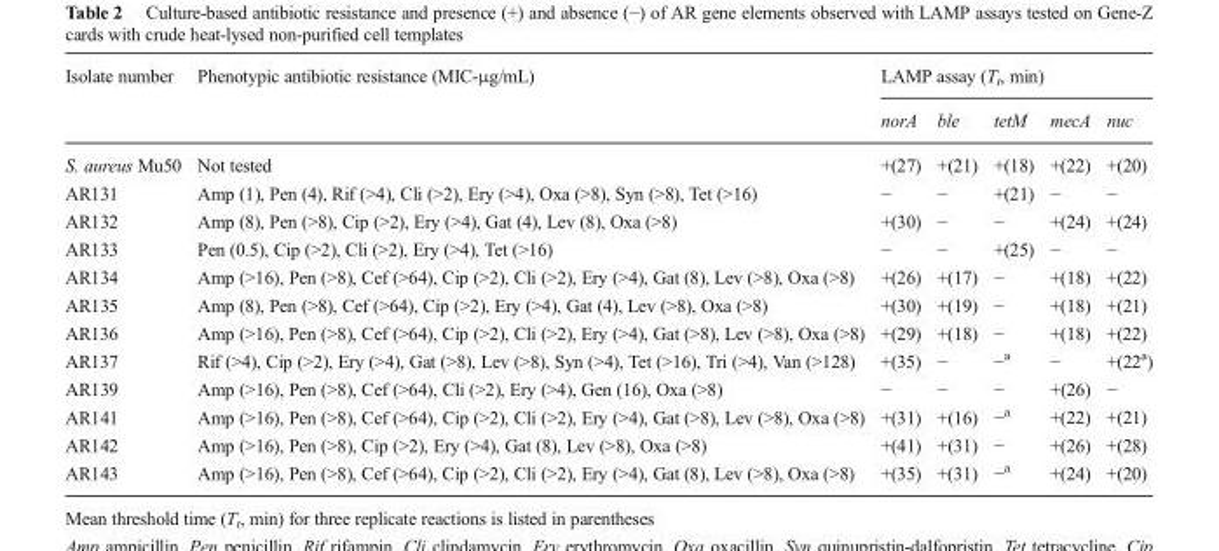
<table><thead><tr><td rowspan="2">Isolate number</td><td rowspan="2">Phenotypic antibiotic resistance (MIC-μg/mL)</td><td colspan="5">LAMP assay (T<sub>t</sub>, min)</td></tr><tr><td>norA</td><td>ble</td><td>tetM</td><td>mecA</td><td>nuc</td></tr></thead><tbody><tr><td>S. aureus Mu50</td><td>Not tested</td><td>+(27)</td><td>+(21)</td><td>+(18)</td><td>+(22)</td><td>+(20)</td></tr><tr><td>AR131</td><td>Amp (1), Pen (4), Rif (&gt;4), Cli (&gt;2), Ery (&gt;4), Oxa (&gt;8), Syn (&gt;8), Tet (&gt;16)</td><td>−</td><td>−</td><td>+(21)</td><td>−</td><td>−</td></tr><tr><td>AR132</td><td>Amp (8), Pen (&gt;8), Cip (&gt;2), Ery (&gt;4), Gat (4), Lev (8), Oxa (&gt;8)</td><td>+(30)</td><td>−</td><td>−</td><td>+(24)</td><td>+(24)</td></tr><tr><td>AR133</td><td>Pen (0.5), Cip (&gt;2), Cli (&gt;2), Ery (&gt;4), Tet (&gt;16)</td><td>−</td><td>−</td><td>+(25)</td><td>−</td><td>−</td></tr><tr><td>AR134</td><td>Amp (&gt;16), Pen (&gt;8), Cef (&gt;64), Cip (&gt;2), Cli (&gt;2), Ery (&gt;4), Gat (8), Lev (&gt;8), Oxa (&gt;8)</td><td>+(26)</td><td>+(17)</td><td>−</td><td>+(18)</td><td>+(22)</td></tr><tr><td>AR135</td><td>Amp (8), Pen (&gt;8), Cef (&gt;64), Cip (&gt;2), Ery (&gt;4), Gat (4), Lev (&gt;8), Oxa (&gt;8)</td><td>+(30)</td><td>+(19)</td><td>−</td><td>+(18)</td><td>+(21)</td></tr><tr><td>AR136</td><td>Amp (&gt;16), Pen (&gt;8), Cef (&gt;64), Cip (&gt;2), Cli (&gt;2), Ery (&gt;4), Gat (&gt;8), Lev (&gt;8), Oxa (&gt;8)</td><td>+(29)</td><td>+(18)</td><td>−</td><td>+(18)</td><td>+(22)</td></tr><tr><td>AR137</td><td>Rif (&gt;4), Cip (&gt;2), Ery (&gt;4), Gat (&gt;8), Lev (&gt;8), Syn (&gt;4), Tet (&gt;16), Tri (&gt;4), Van (&gt;128)</td><td>+(35)</td><td>−</td><td>−<sup>a</sup></td><td>−</td><td>+(22<sup>a</sup>)</td></tr><tr><td>AR139</td><td>Amp (&gt;16), Pen (&gt;8), Cef (&gt;64), Cli (&gt;2), Ery (&gt;4), Gen (16), Oxa (&gt;8)</td><td>−</td><td>−</td><td>−</td><td>+(26)</td><td>−</td></tr><tr><td>AR141</td><td>Amp (&gt;16), Pen (&gt;8), Cef (&gt;64), Cip (&gt;2), Cli (&gt;2), Ery (&gt;4), Gat (&gt;8), Lev (&gt;8), Oxa (&gt;8)</td><td>+(31)</td><td>+(16)</td><td>−<sup>a</sup></td><td>+(22)</td><td>+(21)</td></tr><tr><td>AR142</td><td>Amp (&gt;16), Pen (&gt;8), Cip (&gt;2), Ery (&gt;4), Gat (8), Lev (&gt;8), Oxa (&gt;8)</td><td>+(41)</td><td>+(31)</td><td>−</td><td>+(26)</td><td>+(28)</td></tr><tr><td>AR143</td><td>Amp (&gt;16), Pen (&gt;8), Cef (&gt;64), Cip (&gt;2), Cli (&gt;2), Ery (&gt;4), Gat (8), Lev (&gt;8), Oxa (&gt;8)</td><td>+(35)</td><td>+(31)</td><td>−<sup>a</sup></td><td>+(24)</td><td>+(20)</td></tr></tbody></table>